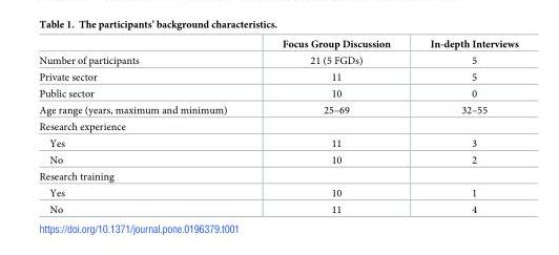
<table><thead><tr><td></td><td>Focus Group Discussion</td><td>In-depth Interviews</td></tr></thead><tbody><tr><td>Number of participants</td><td>21 (5 FGDs)</td><td>5</td></tr><tr><td>Private sector</td><td>11</td><td>5</td></tr><tr><td>Public sector</td><td>10</td><td>0</td></tr><tr><td>Age range (years, maximum and minimum)</td><td>25–69</td><td>32–55</td></tr><tr><td colspan="3">Research experience</td></tr><tr><td>Yes</td><td>11</td><td>3</td></tr><tr><td>No</td><td>10</td><td>2</td></tr><tr><td colspan="3">Research training</td></tr><tr><td>Yes</td><td>10</td><td>1</td></tr><tr><td>No</td><td>11</td><td>4</td></tr></tbody></table>